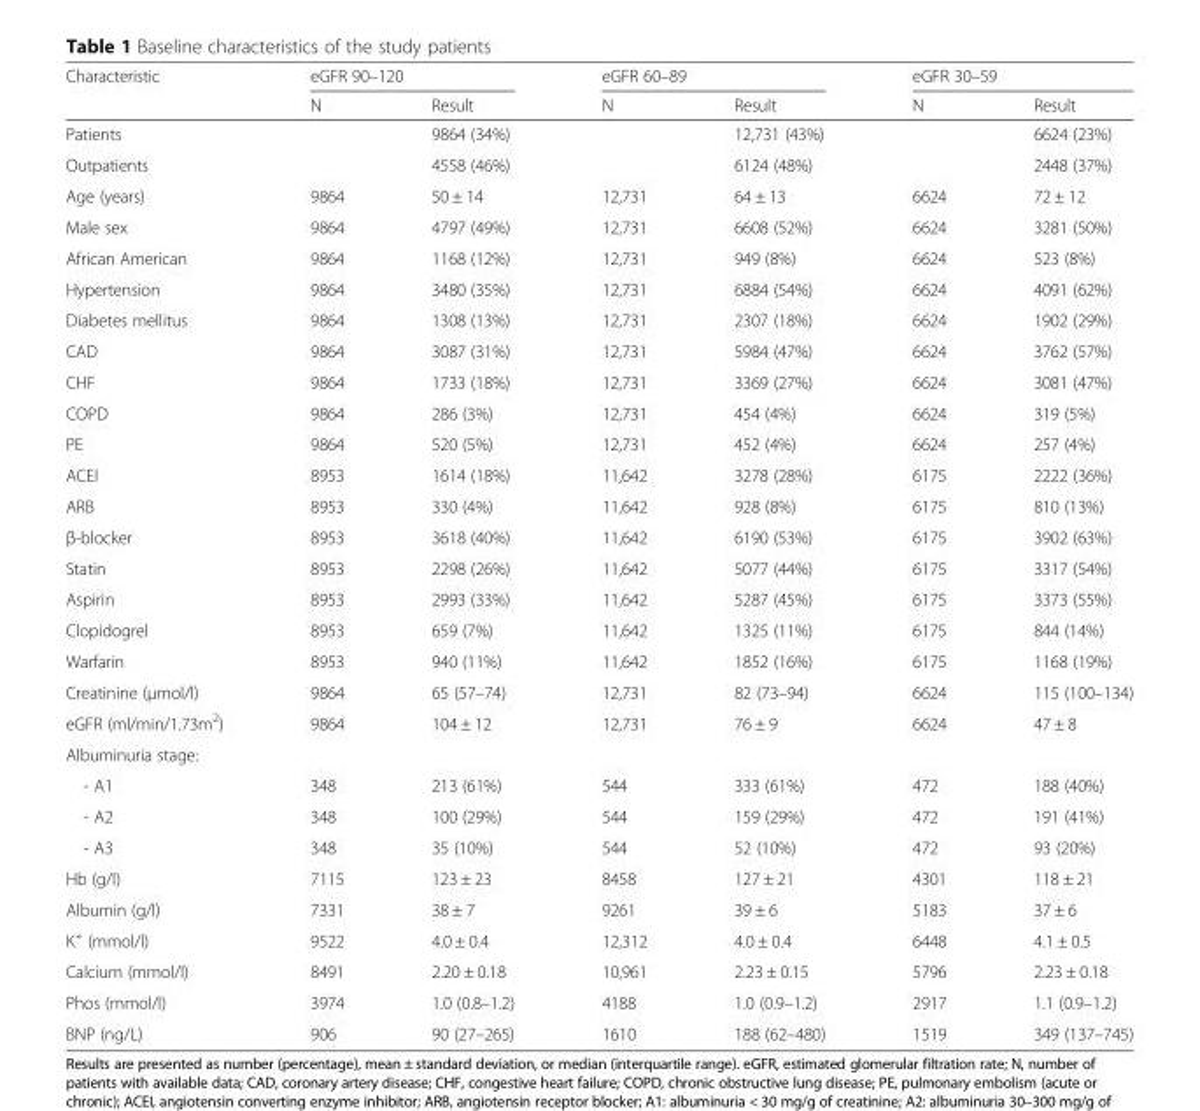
<table><thead><tr><td rowspan="2">Characteristic</td><td colspan="2">eGFR 90–120</td><td colspan="2">eGFR 60–89</td><td colspan="2">eGFR 30–59</td></tr><tr><td>N</td><td>Result</td><td>N</td><td>Result</td><td>N</td><td>Result</td></tr></thead><tbody><tr><td>Patients</td><td></td><td>9864 (34%)</td><td></td><td>12,731 (43%)</td><td></td><td>6624 (23%)</td></tr><tr><td>Outpatients</td><td></td><td>4558 (46%)</td><td></td><td>6124 (48%)</td><td></td><td>2448 (37%)</td></tr><tr><td>Age (years)</td><td>9864</td><td>50 ± 14</td><td>12,731</td><td>64 ± 13</td><td>6624</td><td>72 ± 12</td></tr><tr><td>Male sex</td><td>9864</td><td>4797 (49%)</td><td>12,731</td><td>6608 (52%)</td><td>6624</td><td>3281 (50%)</td></tr><tr><td>African American</td><td>9864</td><td>1168 (12%)</td><td>12,731</td><td>949 (8%)</td><td>6624</td><td>523 (8%)</td></tr><tr><td>Hypertension</td><td>9864</td><td>3480 (35%)</td><td>12,731</td><td>6884 (54%)</td><td>6624</td><td>4091 (62%)</td></tr><tr><td>Diabetes mellitus</td><td>9864</td><td>1308 (13%)</td><td>12,731</td><td>2307 (18%)</td><td>6624</td><td>1902 (29%)</td></tr><tr><td>CAD</td><td>9864</td><td>3087 (31%)</td><td>12,731</td><td>5984 (47%)</td><td>6624</td><td>3762 (57%)</td></tr><tr><td>CHF</td><td>9864</td><td>1733 (18%)</td><td>12,731</td><td>3369 (27%)</td><td>6624</td><td>3081 (47%)</td></tr><tr><td>COPD</td><td>9864</td><td>286 (3%)</td><td>12,731</td><td>454 (4%)</td><td>6624</td><td>319 (5%)</td></tr><tr><td>PE</td><td>9864</td><td>520 (5%)</td><td>12,731</td><td>452 (4%)</td><td>6624</td><td>257 (4%)</td></tr><tr><td>ACEI</td><td>8953</td><td>1614 (18%)</td><td>11,642</td><td>3278 (28%)</td><td>6175</td><td>2222 (36%)</td></tr><tr><td>ARB</td><td>8953</td><td>330 (4%)</td><td>11,642</td><td>928 (8%)</td><td>6175</td><td>810 (13%)</td></tr><tr><td>β-blocker</td><td>8953</td><td>3618 (40%)</td><td>11,642</td><td>6190 (53%)</td><td>6175</td><td>3902 (63%)</td></tr><tr><td>Statin</td><td>8953</td><td>2298 (26%)</td><td>11,642</td><td>5077 (44%)</td><td>6175</td><td>3317 (54%)</td></tr><tr><td>Aspirin</td><td>8953</td><td>2993 (33%)</td><td>11,642</td><td>5287 (45%)</td><td>6175</td><td>3373 (55%)</td></tr><tr><td>Clopidogrel</td><td>8953</td><td>659 (7%)</td><td>11,642</td><td>1325 (11%)</td><td>6175</td><td>844 (14%)</td></tr><tr><td>Warfarin</td><td>8953</td><td>940 (11%)</td><td>11,642</td><td>1852 (16%)</td><td>6175</td><td>1168 (19%)</td></tr><tr><td>Creatinine (μmol/l)</td><td>9864</td><td>65 (57–74)</td><td>12,731</td><td>82 (73–94)</td><td>6624</td><td>115 (100–134)</td></tr><tr><td>eGFR (ml/min/1.73m<sup>2</sup>)</td><td>9864</td><td>104 ± 12</td><td>12,731</td><td>76 ± 9</td><td>6624</td><td>47 ± 8</td></tr><tr><td colspan="7">Albuminuria stage:</td></tr><tr><td>- A1</td><td>348</td><td>213 (61%)</td><td>544</td><td>333 (61%)</td><td>472</td><td>188 (40%)</td></tr><tr><td>- A2</td><td>348</td><td>100 (29%)</td><td>544</td><td>159 (29%)</td><td>472</td><td>191 (41%)</td></tr><tr><td>- A3</td><td>348</td><td>35 (10%)</td><td>544</td><td>52 (10%)</td><td>472</td><td>93 (20%)</td></tr><tr><td>Hb (g/l)</td><td>7115</td><td>123 ± 23</td><td>8458</td><td>127 ± 21</td><td>4301</td><td>118 ± 21</td></tr><tr><td>Albumin (g/l)</td><td>7331</td><td>38 ± 7</td><td>9261</td><td>39 ± 6</td><td>5183</td><td>37 ± 6</td></tr><tr><td>K<sup>+</sup> (mmol/l)</td><td>9522</td><td>4.0 ± 0.4</td><td>12,312</td><td>4.0 ± 0.4</td><td>6448</td><td>4.1 ± 0.5</td></tr><tr><td>Calcium (mmol/l)</td><td>8491</td><td>2.20 ± 0.18</td><td>10,961</td><td>2.23 ± 0.15</td><td>5796</td><td>2.23 ± 0.18</td></tr><tr><td>Phos (mmol/l)</td><td>3974</td><td>1.0 (0.8–1.2)</td><td>4188</td><td>1.0 (0.9–1.2)</td><td>2917</td><td>1.1 (0.9–1.2)</td></tr><tr><td>BNP (ng/L)</td><td>906</td><td>90 (27–265)</td><td>1610</td><td>188 (62–480)</td><td>1519</td><td>349 (137–745)</td></tr></tbody></table>